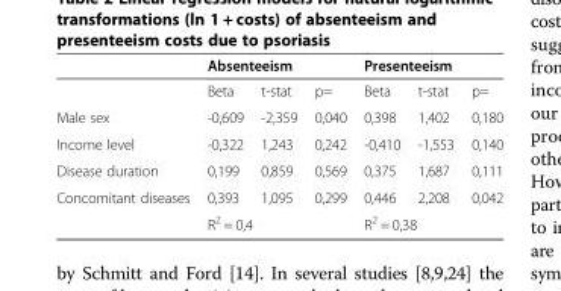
<table><thead><tr><td rowspan="2"></td><td colspan="3">Absenteeism</td><td colspan="3">Presenteeism</td></tr><tr><td>Beta</td><td>t-stat</td><td>p=</td><td>Beta</td><td>t-stat</td><td>p=</td></tr></thead><tbody><tr><td>Male sex</td><td>-0,609</td><td>-2,359</td><td>0,040</td><td>0,398</td><td>1,402</td><td>0,180</td></tr><tr><td>Income level</td><td>-0,322</td><td>1,243</td><td>0,242</td><td>-0,410</td><td>-1,553</td><td>0,140</td></tr><tr><td>Disease duration</td><td>0,199</td><td>0,859</td><td>0,569</td><td>0,375</td><td>1,687</td><td>0,111</td></tr><tr><td rowspan="2">Concomitant diseases</td><td>0,393</td><td>1,095</td><td>0,299</td><td>0,446</td><td>2,208</td><td>0,042</td></tr><tr><td colspan="3">R<sup>2</sup> = 0,4</td><td colspan="3">R<sup>2</sup> = 0,38</td></tr></tbody></table>